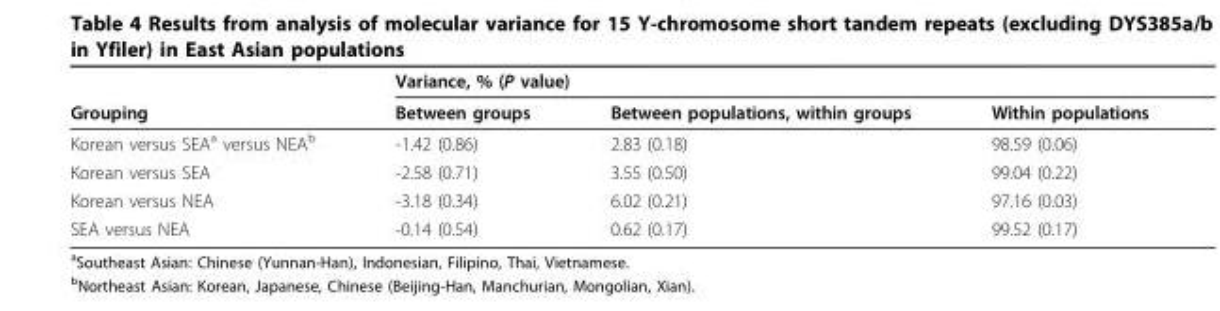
<table><thead><tr><td rowspan="2">Grouping</td><td colspan="3">Variance, % (P value)</td></tr><tr><td>Between groups</td><td>Between populations, within groups</td><td>Within populations</td></tr></thead><tbody><tr><td>Korean versus SEA<sup>a</sup> versus NEA<sup>b</sup></td><td>-1.42 (0.86)</td><td>2.83 (0.18)</td><td>98.59 (0.06)</td></tr><tr><td>Korean versus SEA</td><td>-2.58 (0.71)</td><td>3.55 (0.50)</td><td>99.04 (0.22)</td></tr><tr><td>Korean versus NEA</td><td>-3.18 (0.34)</td><td>6.02 (0.21)</td><td>97.16 (0.03)</td></tr><tr><td>SEA versus NEA</td><td>-0.14 (0.54)</td><td>0.62 (0.17)</td><td>99.52 (0.17)</td></tr></tbody></table>